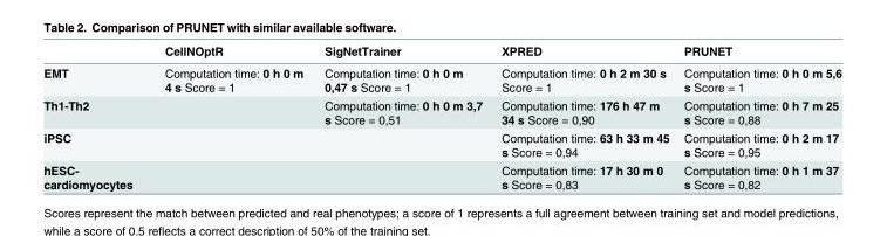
<table><thead><tr><td></td><td>CellNOptR</td><td>SigNetTrainer</td><td>XPRED</td><td>PRUNET</td></tr></thead><tbody><tr><td>EMT</td><td>Computation time: 0 h 0 m 4 s Score = 1</td><td>Computation time: 0 h 0 m 0,47 s Score = 1</td><td>Computation time: 0 h 2 m 30 s Score = 1</td><td>Computation time: 0 h 0 m 5,6 s Score = 1</td></tr><tr><td>Th1-Th2</td><td></td><td>Computation time: 0 h 0 m 3,7 s Score = 0,51</td><td>Computation time: 176 h 47 m 34 s Score = 0,90</td><td>Computation time: 0 h 7 m 25 s Score = 0,88</td></tr><tr><td>iPSC</td><td></td><td></td><td>Computation time: 63 h 33 m 45 s Score = 0,94</td><td>Computation time: 0 h 2 m 17 s Score = 0,95</td></tr><tr><td>hESC- cardiomyocytes</td><td></td><td></td><td>Computation time: 17 h 30 m 0 s Score = 0,83</td><td>Computation time: 0 h 1 m 37 s Score = 0,82</td></tr></tbody></table>